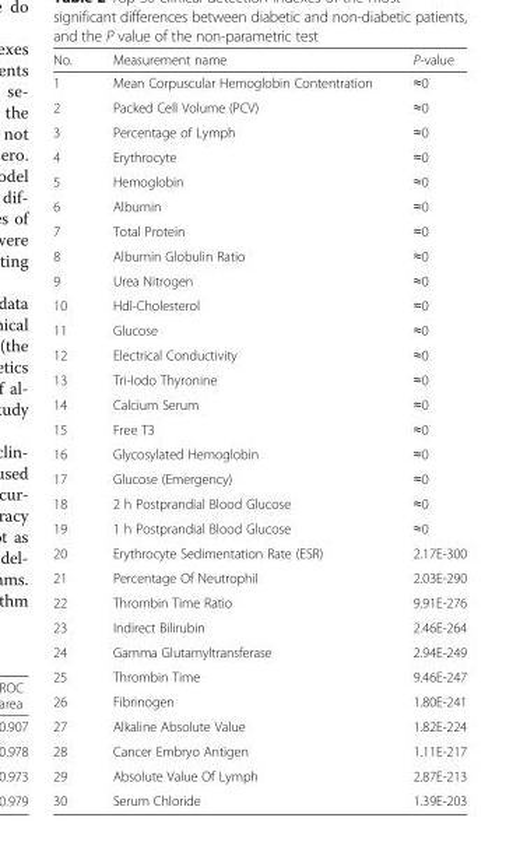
<table><thead><tr><td>No.</td><td>Measurement name</td><td>P-value</td></tr></thead><tbody><tr><td>1</td><td>Mean Corpuscular Hemoglobin Contentration</td><td>≈0</td></tr><tr><td>2</td><td>Packed Cell Volume (PCV)</td><td>≈0</td></tr><tr><td>3</td><td>Percentage of Lymph</td><td>≈0</td></tr><tr><td>4</td><td>Erythrocyte</td><td>≈0</td></tr><tr><td>5</td><td>Hemoglobin</td><td>≈0</td></tr><tr><td>6</td><td>Albumin</td><td>≈0</td></tr><tr><td>7</td><td>Total Protein</td><td>≈0</td></tr><tr><td>8</td><td>Albumin Globulin Ratio</td><td>≈0</td></tr><tr><td>9</td><td>Urea Nitrogen</td><td>≈0</td></tr><tr><td>10</td><td>Hdl-Cholesterol</td><td>≈0</td></tr><tr><td>11</td><td>Glucose</td><td>≈0</td></tr><tr><td>12</td><td>Electrical Conductivity</td><td>≈0</td></tr><tr><td>13</td><td>Tri-Iodo Thyronine</td><td>≈0</td></tr><tr><td>14</td><td>Calcium Serum</td><td>≈0</td></tr><tr><td>15</td><td>Free T3</td><td>≈0</td></tr><tr><td>16</td><td>Glycosylated Hemoglobin</td><td>≈0</td></tr><tr><td>17</td><td>Glucose (Emergency)</td><td>≈0</td></tr><tr><td>18</td><td>2 h Postprandial Blood Glucose</td><td>≈0</td></tr><tr><td>19</td><td>1 h Postprandial Blood Glucose</td><td>≈0</td></tr><tr><td>20</td><td>Erythrocyte Sedimentation Rate (ESR)</td><td>2.17E-300</td></tr><tr><td>21</td><td>Percentage Of Neutrophil</td><td>2.03E-290</td></tr><tr><td>22</td><td>Thrombin Time Ratio</td><td>9.91E-276</td></tr><tr><td>23</td><td>Indirect Bilirubin</td><td>2.46E-264</td></tr><tr><td>24</td><td>Gamma Glutamyltransferase</td><td>2.94E-249</td></tr><tr><td>25</td><td>Thrombin Time</td><td>9.46E-247</td></tr><tr><td>26</td><td>Fibrinogen</td><td>1.80E-241</td></tr><tr><td>27</td><td>Alkaline Absolute Value</td><td>1.82E-224</td></tr><tr><td>28</td><td>Cancer Embryo Antigen</td><td>1.11E-217</td></tr><tr><td>29</td><td>Absolute Value Of Lymph</td><td>2.87E-213</td></tr><tr><td>30</td><td>Serum Chloride</td><td>1.39E-203</td></tr></tbody></table>